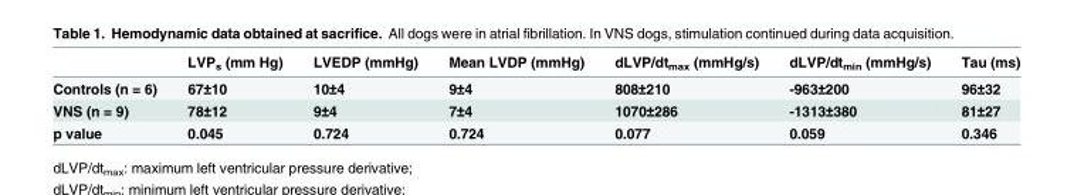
<table><thead><tr><td></td><td>LVP<sub>s</sub> (mm Hg)</td><td>LVEDP (mmHg)</td><td>Mean LVDP (mmHg)</td><td>dLVP/dt<sub>max</sub> (mmHg/s)</td><td>dLVP/dt<sub>min</sub> (mmHg/s)</td><td>Tau (ms)</td></tr></thead><tbody><tr><td>Controls (n = 6)</td><td>67±10</td><td>10±4</td><td>9±4</td><td>808±210</td><td>-963±200</td><td>96±32</td></tr><tr><td>VNS (n = 9)</td><td>78±12</td><td>9±4</td><td>7±4</td><td>1070±286</td><td>-1313±380</td><td>81±27</td></tr><tr><td>p value</td><td>0.045</td><td>0.724</td><td>0.724</td><td>0.077</td><td>0.059</td><td>0.346</td></tr></tbody></table>